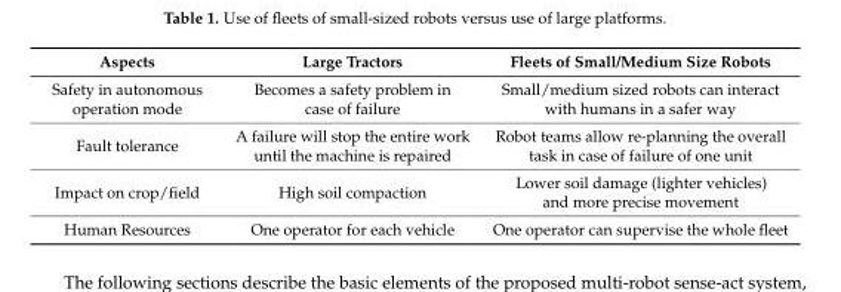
<table><thead><tr><td>Aspects</td><td>Large Tractors</td><td>Fleets of Small/Medium Size Robots</td></tr></thead><tbody><tr><td>Safety in autonomous operation mode</td><td>Becomes a safety problem in case of failure</td><td>Small/medium sized robots can interact with humans in a safer way</td></tr><tr><td>Fault tolerance</td><td>A failure will stop the entire work until the machine is repaired</td><td>Robot teams allow re-planning the overall task in case of failure of one unit</td></tr><tr><td>Impact on crop/field</td><td>High soil compaction</td><td>Lower soil damage (lighter vehicles) and more precise movement</td></tr><tr><td>Human Resources</td><td>One operator for each vehicle</td><td>One operator can supervise the whole fleet</td></tr></tbody></table>